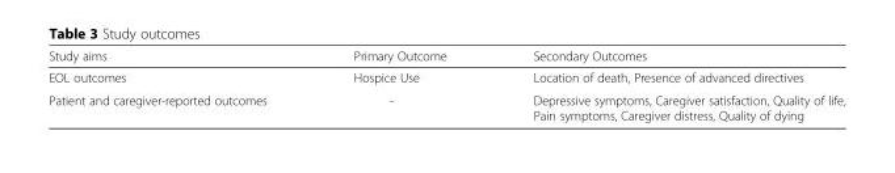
<table><thead><tr><td>Study aims</td><td>Primary Outcome</td><td>Secondary Outcomes</td></tr></thead><tbody><tr><td>EOL outcomes</td><td>Hospice Use</td><td>Location of death, Presence of advanced directives</td></tr><tr><td>Patient and caregiver-reported outcomes</td><td>-</td><td>Depressive symptoms, Caregiver satisfaction, Quality of life, Pain symptoms, Caregiver distress, Quality of dying</td></tr></tbody></table>